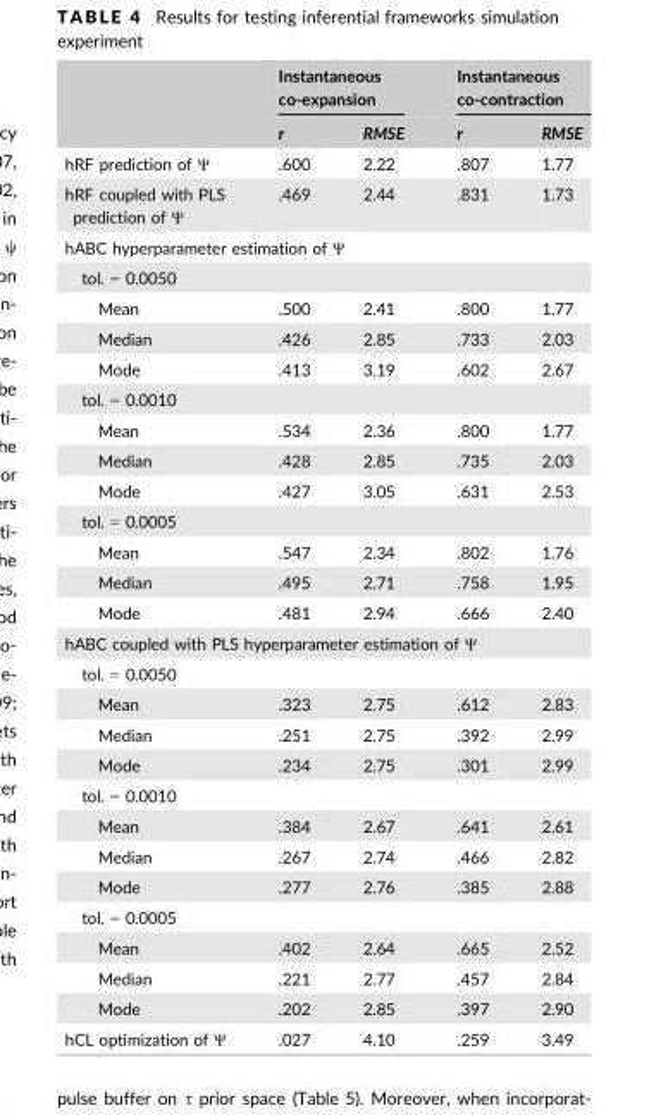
<table><thead><tr><td rowspan="2"></td><td colspan="2">Instantaneous co-expansion</td><td colspan="2">Instantaneous co-contraction</td></tr><tr><td>r</td><td>RMSE</td><td>r</td><td>RMSE</td></tr></thead><tbody><tr><td>hRF prediction of Ψ</td><td>.600</td><td>2.22</td><td>.807</td><td>1.77</td></tr><tr><td>hRF coupled with PLS prediction of Ψ</td><td>.469</td><td>2.44</td><td>.831</td><td>1.73</td></tr><tr><td colspan="5">hABC hyperparameter estimation of Ψ</td></tr><tr><td colspan="5">tol. = 0.0050</td></tr><tr><td>Mean</td><td>.500</td><td>2.41</td><td>.800</td><td>1.77</td></tr><tr><td>Median</td><td>.426</td><td>2.85</td><td>.733</td><td>2.03</td></tr><tr><td>Mode</td><td>.413</td><td>3.19</td><td>.602</td><td>2.67</td></tr><tr><td colspan="5">tol. = 0.0010</td></tr><tr><td>Mean</td><td>.534</td><td>2.36</td><td>.800</td><td>1.77</td></tr><tr><td>Median</td><td>.428</td><td>2.85</td><td>.735</td><td>2.03</td></tr><tr><td>Mode</td><td>.427</td><td>3.05</td><td>.631</td><td>2.53</td></tr><tr><td colspan="5">tol. = 0.0005</td></tr><tr><td>Mean</td><td>.547</td><td>2.34</td><td>.802</td><td>1.76</td></tr><tr><td>Median</td><td>.495</td><td>2.71</td><td>.758</td><td>1.95</td></tr><tr><td>Mode</td><td>.481</td><td>2.94</td><td>.666</td><td>2.40</td></tr><tr><td colspan="5">hABC coupled with PLS hyperparameter estimation of Ψ</td></tr><tr><td colspan="5">tol. = 0.0050</td></tr><tr><td>Mean</td><td>.323</td><td>2.75</td><td>.612</td><td>2.83</td></tr><tr><td>Median</td><td>.251</td><td>2.75</td><td>.392</td><td>2.99</td></tr><tr><td>Mode</td><td>.234</td><td>2.75</td><td>.301</td><td>2.99</td></tr><tr><td colspan="5">tol. = 0.0010</td></tr><tr><td>Mean</td><td>.384</td><td>2.67</td><td>.641</td><td>2.61</td></tr><tr><td>Median</td><td>.267</td><td>2.74</td><td>.466</td><td>2.82</td></tr><tr><td>Mode</td><td>.277</td><td>2.76</td><td>.385</td><td>2.88</td></tr><tr><td colspan="5">tol. = 0.0005</td></tr><tr><td>Mean</td><td>.402</td><td>2.64</td><td>.665</td><td>2.52</td></tr><tr><td>Median</td><td>.221</td><td>2.77</td><td>.457</td><td>2.84</td></tr><tr><td>Mode</td><td>.202</td><td>2.85</td><td>.397</td><td>2.90</td></tr><tr><td>hCL optimization of Ψ</td><td>.027</td><td>4.10</td><td>.259</td><td>3.49</td></tr></tbody></table>